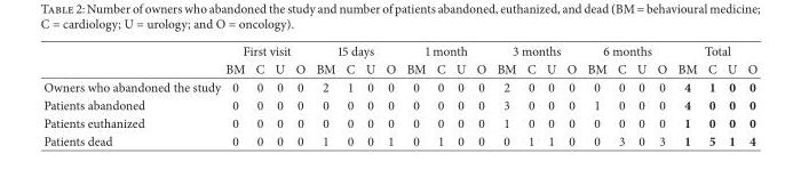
<table><thead><tr><td rowspan="2"></td><td colspan="4">First visit</td><td colspan="4">15 days</td><td colspan="4">1 month</td><td colspan="4">3 months</td><td colspan="4">6 months</td><td colspan="4">Total</td></tr><tr><td>BM</td><td>C</td><td>U</td><td>O</td><td>BM</td><td>C</td><td>U</td><td>O</td><td>BM</td><td>C</td><td>U</td><td>O</td><td>BM</td><td>C</td><td>U</td><td>O</td><td>BM</td><td>C</td><td>U</td><td>O</td><td>BM</td><td>C</td><td>U</td><td>O</td></tr></thead><tbody><tr><td>Owners who abandoned the study</td><td>0</td><td>0</td><td>0</td><td>0</td><td>2</td><td>1</td><td>0</td><td>0</td><td>0</td><td>0</td><td>0</td><td>0</td><td>2</td><td>0</td><td>0</td><td>0</td><td>0</td><td>0</td><td>0</td><td>0</td><td>4</td><td>1</td><td>0</td><td>0</td></tr><tr><td>Patients abandoned</td><td>0</td><td>0</td><td>0</td><td>0</td><td>0</td><td>0</td><td>0</td><td>0</td><td>0</td><td>0</td><td>0</td><td>0</td><td>3</td><td>0</td><td>0</td><td>0</td><td>1</td><td>0</td><td>0</td><td>0</td><td>4</td><td>0</td><td>0</td><td>0</td></tr><tr><td>Patients euthanized</td><td>0</td><td>0</td><td>0</td><td>0</td><td>0</td><td>0</td><td>0</td><td>0</td><td>0</td><td>0</td><td>0</td><td>0</td><td>1</td><td>0</td><td>0</td><td>0</td><td>0</td><td>0</td><td>0</td><td>0</td><td>1</td><td>0</td><td>0</td><td>0</td></tr><tr><td>Patients dead</td><td>0</td><td>0</td><td>0</td><td>0</td><td>1</td><td>0</td><td>0</td><td>1</td><td>0</td><td>1</td><td>0</td><td>0</td><td>0</td><td>1</td><td>1</td><td>0</td><td>0</td><td>3</td><td>0</td><td>3</td><td>1</td><td>5</td><td>1</td><td>4</td></tr></tbody></table>